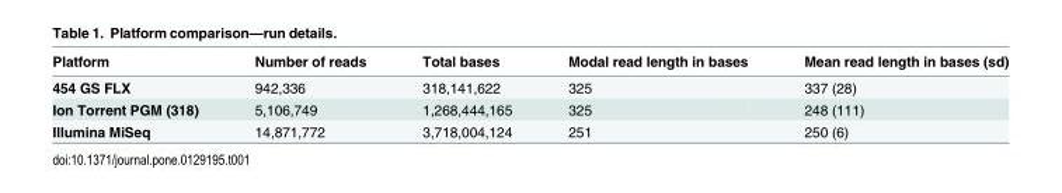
<table><thead><tr><td>Platform</td><td>Number of reads</td><td>Total bases</td><td>Modal read length in bases</td><td>Mean read length in bases (sd)</td></tr></thead><tbody><tr><td>454 GS FLX</td><td>942,336</td><td>318,141,622</td><td>325</td><td>337 (28)</td></tr><tr><td>Ion Torrent PGM (318)</td><td>5,106,749</td><td>1,268,444,165</td><td>325</td><td>248 (111)</td></tr><tr><td>Illumina MiSeq</td><td>14,871,772</td><td>3,718,004,124</td><td>251</td><td>250 (6)</td></tr></tbody></table>